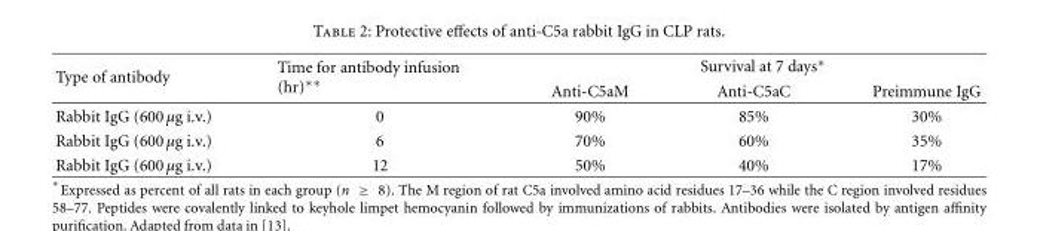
<table><thead><tr><td rowspan="2">Type of antibody</td><td rowspan="2">Time for antibody infusion (hr)∗∗</td><td colspan="3">Survival at 7 days∗</td></tr><tr><td>Anti-C5aM</td><td>Anti-C5aC</td><td>Preimmune IgG</td></tr></thead><tbody><tr><td>Rabbit IgG (600 µg i.v.)</td><td>0</td><td>90%</td><td>85%</td><td>30%</td></tr><tr><td>Rabbit IgG (600 µg i.v.)</td><td>6</td><td>70%</td><td>60%</td><td>35%</td></tr><tr><td>Rabbit IgG (600 µg i.v.)</td><td>12</td><td>50%</td><td>40%</td><td>17%</td></tr></tbody></table>